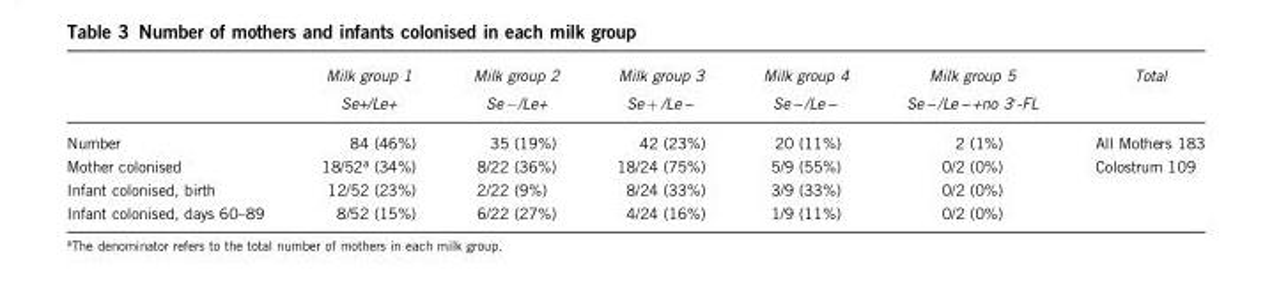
<table><thead><tr><td></td><td>Milk group 1 Se+/Le+</td><td>Milk group 2 Se−/Le+</td><td>Milk group 3 Se+ /Le −</td><td>Milk group 4 Se− /Le −</td><td>Milk group 5 Se− /Le − +no 3′-FL</td><td>Total</td></tr></thead><tbody><tr><td>Number</td><td>84 (46%)</td><td>35 (19%)</td><td>42 (23%)</td><td>20 (11%)</td><td>2 (1%)</td><td>All Mothers 183</td></tr><tr><td>Mother colonised</td><td>18/52<sup>a</sup> (34%)</td><td>8/22 (36%)</td><td>18/24 (75%)</td><td>5/9 (55%)</td><td>0/2 (0%)</td><td>Colostrum 109</td></tr><tr><td>Infant colonised, birth</td><td>12/52 (23%)</td><td>2/22 (9%)</td><td>8/24 (33%)</td><td>3/9 (33%)</td><td>0/2 (0%)</td><td></td></tr><tr><td>Infant colonised, days 60–89</td><td>8/52 (15%)</td><td>6/22 (27%)</td><td>4/24 (16%)</td><td>1/9 (11%)</td><td>0/2 (0%)</td><td></td></tr></tbody></table>